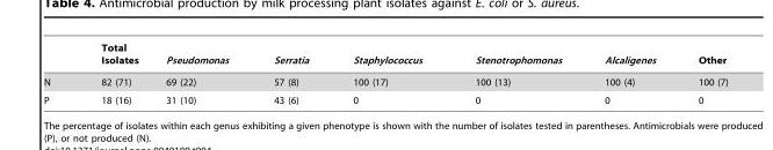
<table><thead><tr><td></td><td>Total Isolates</td><td>Pseudomonas</td><td>Serratia</td><td>Staphylococcus</td><td>Stenotrophomonas</td><td>Alcaligenes</td><td>Other</td></tr></thead><tbody><tr><td>N</td><td>82 (71)</td><td>69 (22)</td><td>57 (8)</td><td>100 (17)</td><td>100 (13)</td><td>100 (4)</td><td>100 (7)</td></tr><tr><td>P</td><td>18 (16)</td><td>31 (10)</td><td>43 (6)</td><td>0</td><td>0</td><td>0</td><td>0</td></tr></tbody></table>